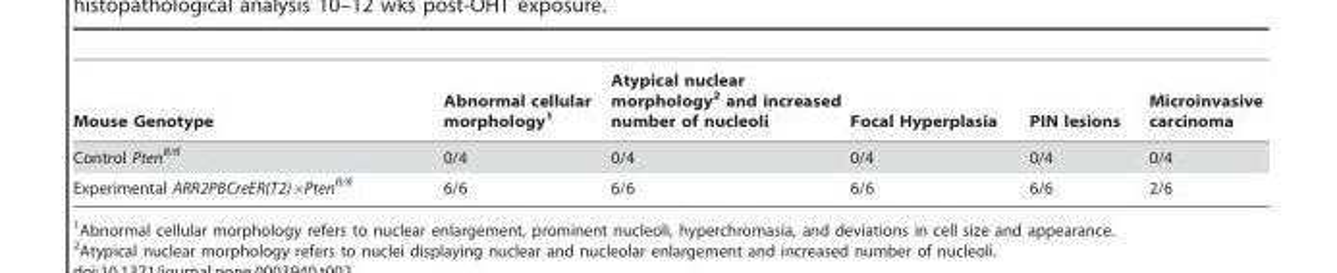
<table><thead><tr><td>Mouse Genotype</td><td>Abnormal cellular morphology<sup>1</sup></td><td>Atypical nuclear morphology<sup>2</sup> and increased number of nucleoli</td><td>Focal Hyperplasia</td><td>PIN lesions</td><td>Microinvasive carcinoma</td></tr></thead><tbody><tr><td>Control Pten<sup>fl/fl</sup></td><td>0/4</td><td>0/4</td><td>0/4</td><td>0/4</td><td>0/4</td></tr><tr><td>Experimental ARR2PBCreER(T2)×Pten<sup>fl/fl</sup></td><td>6/6</td><td>6/6</td><td>6/6</td><td>6/6</td><td>2/6</td></tr></tbody></table>